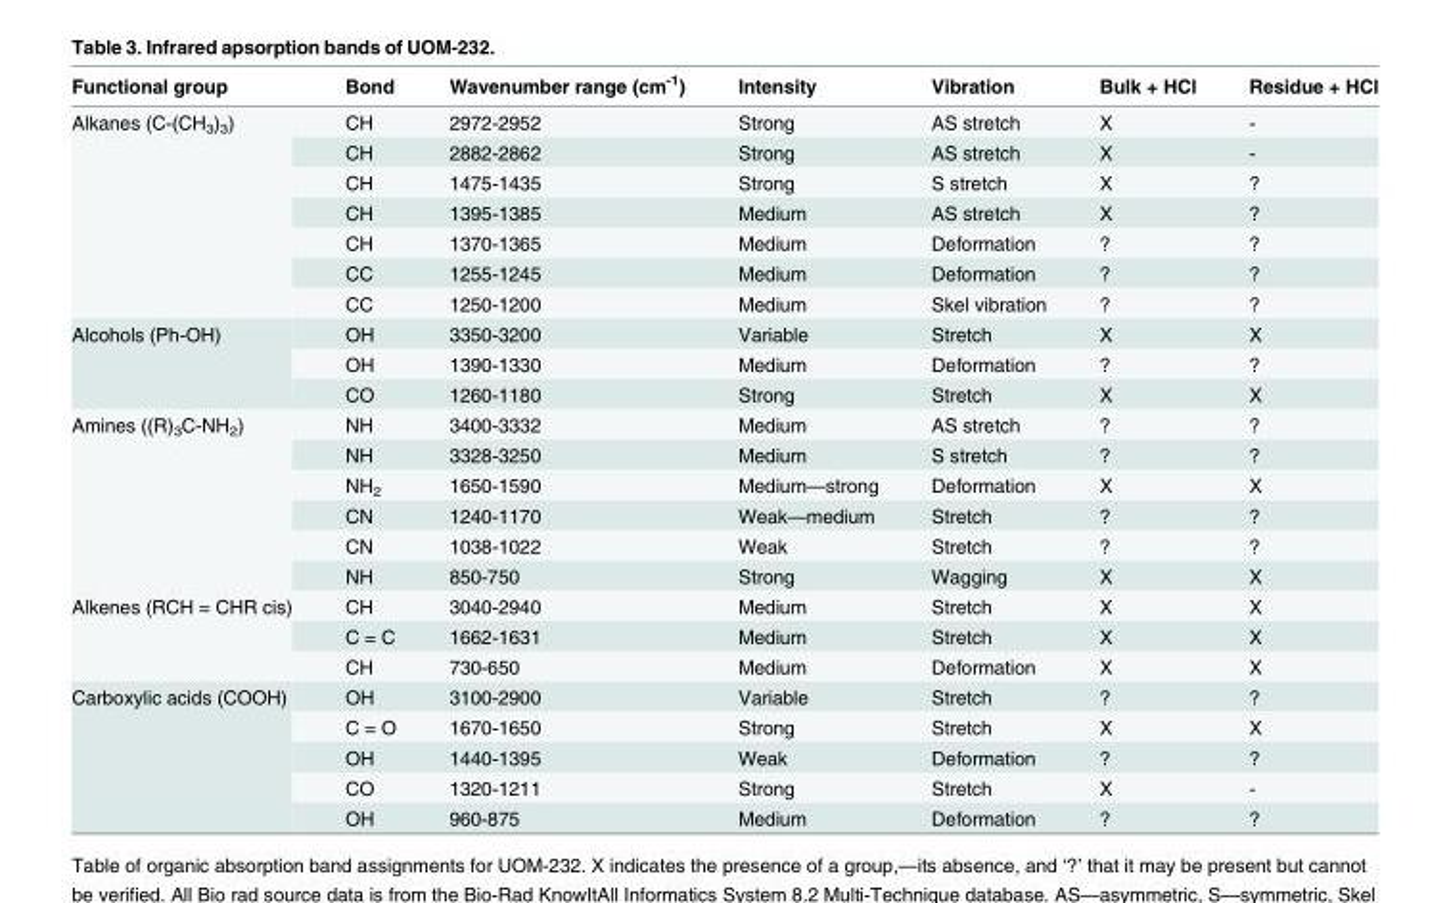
<table><thead><tr><td>Functional group</td><td>Bond</td><td>Wavenumber range (cm<sup>-1</sup>)</td><td>Intensity</td><td>Vibration</td><td>Bulk + HCl</td><td>Residue + HCl</td></tr></thead><tbody><tr><td rowspan="7">Alkanes (C-(CH<sub>3</sub>)<sub>3</sub>)</td><td>CH</td><td>2972-2952</td><td>Strong</td><td>AS stretch</td><td>X</td><td>-</td></tr><tr><td>CH</td><td>2882-2862</td><td>Strong</td><td>AS stretch</td><td>X</td><td>-</td></tr><tr><td>CH</td><td>1475-1435</td><td>Strong</td><td>S stretch</td><td>X</td><td>?</td></tr><tr><td>CH</td><td>1395-1385</td><td>Medium</td><td>AS stretch</td><td>X</td><td>?</td></tr><tr><td>CH</td><td>1370-1365</td><td>Medium</td><td>Deformation</td><td>?</td><td>?</td></tr><tr><td>CC</td><td>1255-1245</td><td>Medium</td><td>Deformation</td><td>?</td><td>?</td></tr><tr><td>CC</td><td>1250-1200</td><td>Medium</td><td>Skel vibration</td><td>?</td><td>?</td></tr><tr><td rowspan="3">Alcohols (Ph-OH)</td><td>OH</td><td>3350-3200</td><td>Variable</td><td>Stretch</td><td>X</td><td>X</td></tr><tr><td>OH</td><td>1390-1330</td><td>Medium</td><td>Deformation</td><td>?</td><td>?</td></tr><tr><td>CO</td><td>1260-1180</td><td>Strong</td><td>Stretch</td><td>X</td><td>X</td></tr><tr><td rowspan="6">Amines ((R)<sub>3</sub>C-NH<sub>2</sub>)</td><td>NH</td><td>3400-3332</td><td>Medium</td><td>AS stretch</td><td>?</td><td>?</td></tr><tr><td>NH</td><td>3328-3250</td><td>Medium</td><td>S stretch</td><td>?</td><td>?</td></tr><tr><td>NH<sub>2</sub></td><td>1650-1590</td><td>Medium—strong</td><td>Deformation</td><td>X</td><td>X</td></tr><tr><td>CN</td><td>1240-1170</td><td>Weak—medium</td><td>Stretch</td><td>?</td><td>?</td></tr><tr><td>CN</td><td>1038-1022</td><td>Weak</td><td>Stretch</td><td>?</td><td>?</td></tr><tr><td>NH</td><td>850-750</td><td>Strong</td><td>Wagging</td><td>X</td><td>X</td></tr><tr><td rowspan="3">Alkenes (RCH = CHR cis)</td><td>CH</td><td>3040-2940</td><td>Medium</td><td>Stretch</td><td>X</td><td>X</td></tr><tr><td>C = C</td><td>1662-1631</td><td>Medium</td><td>Stretch</td><td>X</td><td>X</td></tr><tr><td>CH</td><td>730-650</td><td>Medium</td><td>Deformation</td><td>X</td><td>X</td></tr><tr><td rowspan="5">Carboxylic acids (COOH)</td><td>OH</td><td>3100-2900</td><td>Variable</td><td>Stretch</td><td>?</td><td>?</td></tr><tr><td>C = O</td><td>1670-1650</td><td>Strong</td><td>Stretch</td><td>X</td><td>X</td></tr><tr><td>OH</td><td>1440-1395</td><td>Weak</td><td>Deformation</td><td>?</td><td>?</td></tr><tr><td>CO</td><td>1320-1211</td><td>Strong</td><td>Stretch</td><td>X</td><td>-</td></tr><tr><td>OH</td><td>960-875</td><td>Medium</td><td>Deformation</td><td>?</td><td>?</td></tr></tbody></table>